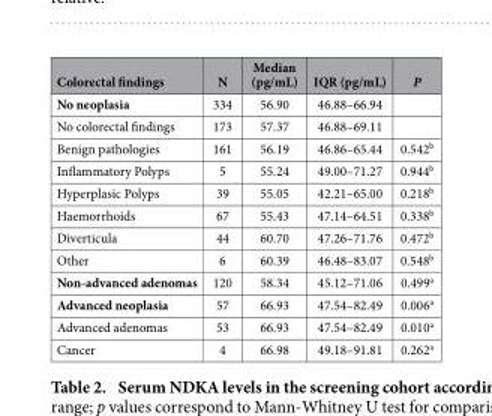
<table><thead><tr><td>Colorectal findings</td><td>N</td><td>Median (pg/mL)</td><td>IQR (pg/mL)</td><td>P</td></tr></thead><tbody><tr><td>No neoplasia</td><td>334</td><td>56.90</td><td>46.88–66.94</td><td></td></tr><tr><td>No colorectal findings</td><td>173</td><td>57.37</td><td>46.88–69.11</td><td></td></tr><tr><td>Benign pathologies</td><td>161</td><td>56.19</td><td>46.86–65.44</td><td>0.542<sup>b</sup></td></tr><tr><td>Inflammatory Polyps</td><td>5</td><td>55.24</td><td>49.00–71.27</td><td>0.944<sup>b</sup></td></tr><tr><td>Hyperplasic Polyps</td><td>39</td><td>55.05</td><td>42.21–65.00</td><td>0.218<sup>b</sup></td></tr><tr><td>Haemorrhoids</td><td>67</td><td>55.43</td><td>47.14–64.51</td><td>0.338<sup>b</sup></td></tr><tr><td>Diverticula</td><td>44</td><td>60.70</td><td>47.26–71.76</td><td>0.472<sup>b</sup></td></tr><tr><td>Other</td><td>6</td><td>60.39</td><td>46.48–83.07</td><td>0.548<sup>b</sup></td></tr><tr><td>Non-advanced adenomas</td><td>120</td><td>58.34</td><td>45.12–71.06</td><td>0.499<sup>a</sup></td></tr><tr><td>Advanced neoplasia</td><td>57</td><td>66.93</td><td>47.54–82.49</td><td>0.006<sup>a</sup></td></tr><tr><td>Advanced adenomas</td><td>53</td><td>66.93</td><td>47.54–82.49</td><td>0.010<sup>a</sup></td></tr><tr><td>Cancer</td><td>4</td><td>66.98</td><td>49.18–91.81</td><td>0.262<sup>a</sup></td></tr></tbody></table>